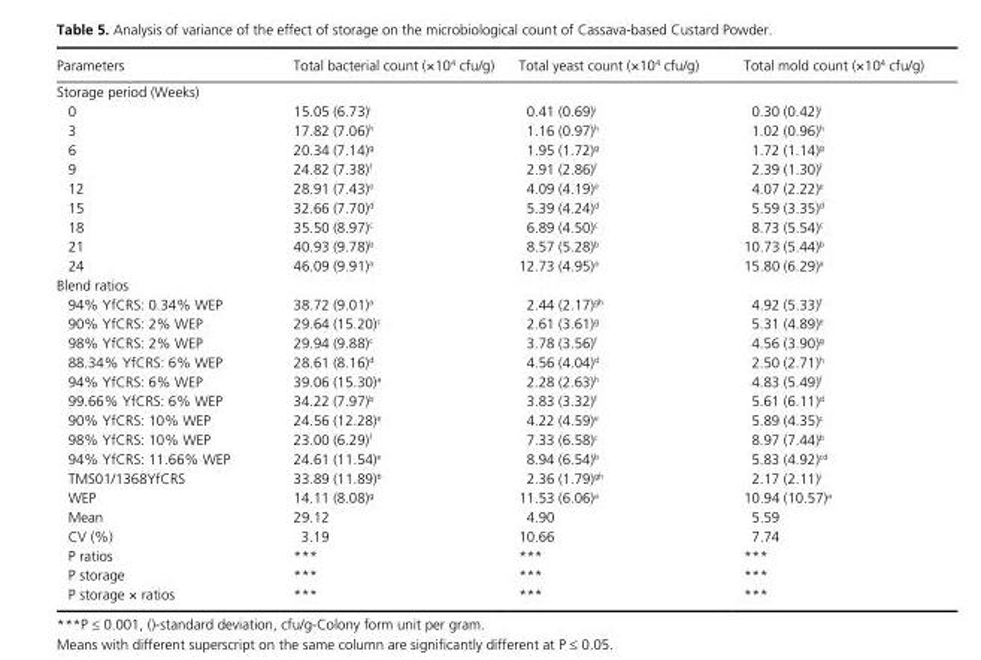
<table><thead><tr><td>Parameters</td><td>Total bacterial count (×10<sup>4</sup> cfu/g)</td><td>Total yeast count (×10<sup>4</sup> cfu/g)</td><td>Total mold count (×10<sup>4</sup> cfu/g)</td></tr></thead><tbody><tr><td colspan="4">Storage period (Weeks)</td></tr><tr><td>0</td><td>15.05 (6.73)<sup>i</sup></td><td>0.41 (0.69)<sup>i</sup></td><td>0.30 (0.42)<sup>i</sup></td></tr><tr><td>3</td><td>17.82 (7.06)<sup>h</sup></td><td>1.16 (0.97)<sup>h</sup></td><td>1.02 (0.96)<sup>h</sup></td></tr><tr><td>6</td><td>20.34 (7.14)<sup>g</sup></td><td>1.95 (1.72)<sup>g</sup></td><td>1.72 (1.14)<sup>g</sup></td></tr><tr><td>9</td><td>24.82 (7.38)<sup>f</sup></td><td>2.91 (2.86)<sup>f</sup></td><td>2.39 (1.30)<sup>f</sup></td></tr><tr><td>12</td><td>28.91 (7.43)<sup>e</sup></td><td>4.09 (4.19)<sup>e</sup></td><td>4.07 (2.22)<sup>e</sup></td></tr><tr><td>15</td><td>32.66 (7.70)<sup>d</sup></td><td>5.39 (4.24)<sup>d</sup></td><td>5.59 (3.35)<sup>d</sup></td></tr><tr><td>18</td><td>35.50 (8.97)<sup>c</sup></td><td>6.89 (4.50)<sup>c</sup></td><td>8.73 (5.54)<sup>c</sup></td></tr><tr><td>21</td><td>40.93 (9.78)<sup>b</sup></td><td>8.57 (5.28)<sup>b</sup></td><td>10.73 (5.44)<sup>b</sup></td></tr><tr><td>24</td><td>46.09 (9.91)<sup>a</sup></td><td>12.73 (4.95)<sup>a</sup></td><td>15.80 (6.29)<sup>a</sup></td></tr><tr><td colspan="4">Blend ratios</td></tr><tr><td>94% YfCRS: 0.34% WEP</td><td>38.72 (9.01)<sup>a</sup></td><td>2.44 (2.17)<sup>gh</sup></td><td>4.92 (5.33)<sup>f</sup></td></tr><tr><td>90% YfCRS: 2% WEP</td><td>29.64 (15.20)<sup>c</sup></td><td>2.61 (3.61)<sup>g</sup></td><td>5.31 (4.89)<sup>e</sup></td></tr><tr><td>98% YfCRS: 2% WEP</td><td>29.94 (9.88)<sup>c</sup></td><td>3.78 (3.56)<sup>f</sup></td><td>4.56 (3.90)<sup>g</sup></td></tr><tr><td>88.34% YfCRS: 6% WEP</td><td>28.61 (8.16)<sup>d</sup></td><td>4.56 (4.04)<sup>d</sup></td><td>2.50 (2.71)<sup>h</sup></td></tr><tr><td>94% YfCRS: 6% WEP</td><td>39.06 (15.30)<sup>a</sup></td><td>2.28 (2.63)<sup>h</sup></td><td>4.83 (5.49)<sup>f</sup></td></tr><tr><td>99.66% YfCRS: 6% WEP</td><td>34.22 (7.97)<sup>b</sup></td><td>3.83 (3.32)<sup>f</sup></td><td>5.61 (6.11)<sup>d</sup></td></tr><tr><td>90% YfCRS: 10% WEP</td><td>24.56 (12.28)<sup>e</sup></td><td>4.22 (4.59)<sup>e</sup></td><td>5.89 (4.35)<sup>c</sup></td></tr><tr><td>98% YfCRS: 10% WEP</td><td>23.00 (6.29)<sup>f</sup></td><td>7.33 (6.58)<sup>c</sup></td><td>8.97 (7.44)<sup>b</sup></td></tr><tr><td>94% YfCRS: 11.66% WEP</td><td>24.61 (11.54)<sup>e</sup></td><td>8.94 (6.54)<sup>b</sup></td><td>5.83 (4.92)<sup>cd</sup></td></tr><tr><td>TMS01/1368YfCRS</td><td>33.89 (11.89)<sup>b</sup></td><td>2.36 (1.79)<sup>gh</sup></td><td>2.17 (2.11)<sup>i</sup></td></tr><tr><td>WEP</td><td>14.11 (8.08)<sup>g</sup></td><td>11.53 (6.06)<sup>a</sup></td><td>10.94 (10.57)<sup>a</sup></td></tr><tr><td>Mean</td><td>29.12</td><td>4.90</td><td>5.59</td></tr><tr><td>CV (%)</td><td>3.19</td><td>10.66</td><td>7.74</td></tr><tr><td>P ratios</td><td>***</td><td>***</td><td>***</td></tr><tr><td>P storage</td><td>***</td><td>***</td><td>***</td></tr><tr><td>P storage × ratios</td><td>***</td><td>***</td><td>***</td></tr></tbody></table>